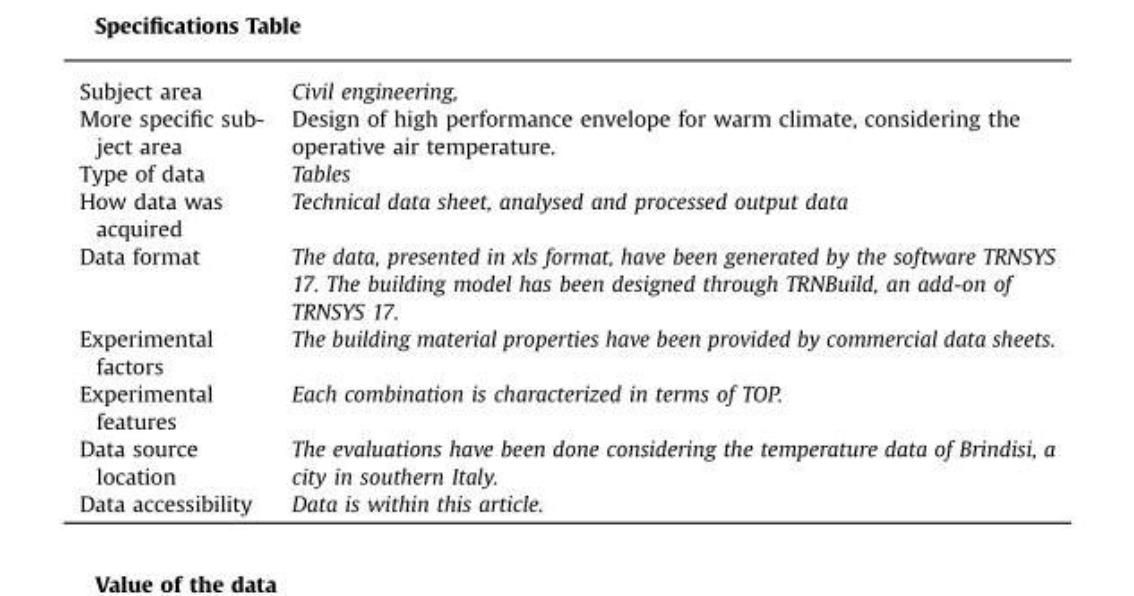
<table><tbody><tr><td>Subject area</td><td>Civil engineering,</td></tr><tr><td>More specific sub- ject area</td><td>Design of high performance envelope for warm climate, considering the operative air temperature.</td></tr><tr><td>Type of data</td><td>Tables</td></tr><tr><td>How data was acquired</td><td>Technical data sheet, analysed and processed output data</td></tr><tr><td>Data format</td><td>The data, presented in xls format, have been generated by the software TRNSYS 17. The building model has been designed through TRNBuild, an add-on of TRNSYS 17.</td></tr><tr><td>Experimental factors</td><td>The building material properties have been provided by commercial data sheets.</td></tr><tr><td>Experimental features</td><td>Each combination is characterized in terms of TOP.</td></tr><tr><td>Data source location</td><td>The evaluations have been done considering the temperature data of Brindisi, a city in southern Italy.</td></tr><tr><td>Data accessibility</td><td>Data is within this article.</td></tr></tbody></table>